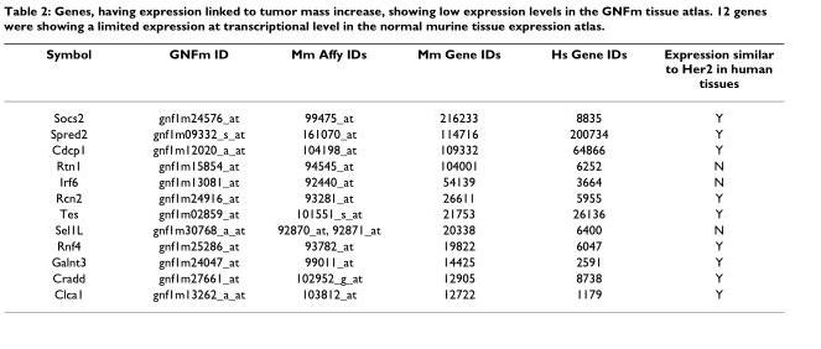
<table><thead><tr><td>Symbol</td><td>GNFm ID</td><td>Mm Affy IDs</td><td>Mm Gene IDs</td><td>Hs Gene IDs</td><td>Expression similar to Her2 in human tissues</td></tr></thead><tbody><tr><td>Socs2</td><td>gnf1m24576_at</td><td>99475_at</td><td>216233</td><td>8835</td><td>Y</td></tr><tr><td>Spred2</td><td>gnf1m09332_s_at</td><td>161070_at</td><td>114716</td><td>200734</td><td>Y</td></tr><tr><td>Cdcp1</td><td>gnf1m12020_a_at</td><td>104198_at</td><td>109332</td><td>64866</td><td>Y</td></tr><tr><td>Rtn1</td><td>gnf1m15854_at</td><td>94545_at</td><td>104001</td><td>6252</td><td>N</td></tr><tr><td>Irf6</td><td>gnf1m13081_at</td><td>92440_at</td><td>54139</td><td>3664</td><td>N</td></tr><tr><td>Rcn2</td><td>gnf1m24916_at</td><td>93281_at</td><td>26611</td><td>5955</td><td>Y</td></tr><tr><td>Tes</td><td>gnf1m02859_at</td><td>101551_s_at</td><td>21753</td><td>26136</td><td>Y</td></tr><tr><td>Sel1L</td><td>gnf1m30768_a_at</td><td>92870_at, 92871_at</td><td>20338</td><td>6400</td><td>N</td></tr><tr><td>Rnf4</td><td>gnf1m25286_at</td><td>93782_at</td><td>19822</td><td>6047</td><td>Y</td></tr><tr><td>Galnt3</td><td>gnf1m24047_at</td><td>99011_at</td><td>14425</td><td>2591</td><td>Y</td></tr><tr><td>Cradd</td><td>gnf1m27661_at</td><td>102952_g_at</td><td>12905</td><td>8738</td><td>Y</td></tr><tr><td>Clca1</td><td>gnf1m13262_a_at</td><td>103812_at</td><td>12722</td><td>1179</td><td>Y</td></tr></tbody></table>